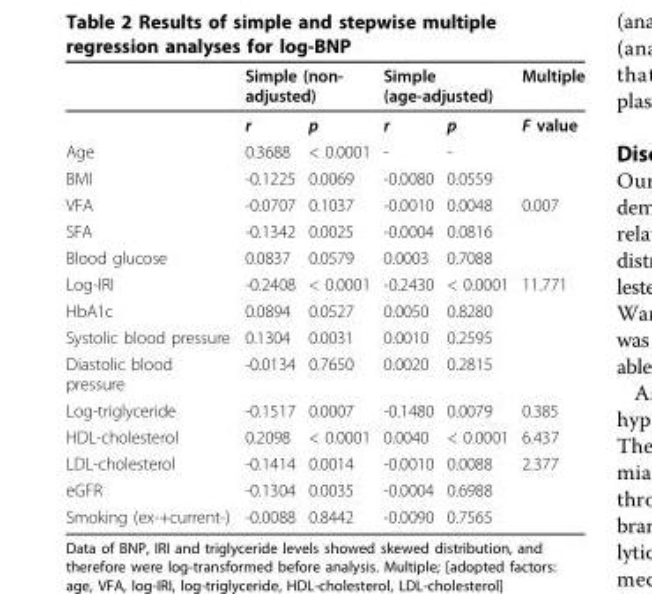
<table><thead><tr><td rowspan="2"></td><td colspan="2">Simple (non- adjusted)</td><td colspan="2">Simple (age-adjusted)</td><td rowspan="2">Multiple F value</td></tr><tr><td>r</td><td>p</td><td>r</td><td>p</td></tr></thead><tbody><tr><td>Age</td><td>0.3688</td><td>&lt; 0.0001</td><td>-</td><td>-</td><td></td></tr><tr><td>BMI</td><td>-0.1225</td><td>0.0069</td><td>-0.0080</td><td>0.0559</td><td></td></tr><tr><td>VFA</td><td>-0.0707</td><td>0.1037</td><td>-0.0010</td><td>0.0048</td><td>0.007</td></tr><tr><td>SFA</td><td>-0.1342</td><td>0.0025</td><td>-0.0004</td><td>0.0816</td><td></td></tr><tr><td>Blood glucose</td><td>0.0837</td><td>0.0579</td><td>0.0003</td><td>0.7088</td><td></td></tr><tr><td>Log-IRI</td><td>-0.2408</td><td>&lt; 0.0001</td><td>-0.2430</td><td>&lt; 0.0001</td><td>11.771</td></tr><tr><td>HbA1c</td><td>0.0894</td><td>0.0527</td><td>0.0050</td><td>0.8280</td><td></td></tr><tr><td>Systolic blood pressure</td><td>0.1304</td><td>0.0031</td><td>0.0010</td><td>0.2595</td><td></td></tr><tr><td>Diastolic blood pressure</td><td>-0.0134</td><td>0.7650</td><td>0.0020</td><td>0.2815</td><td></td></tr><tr><td>Log-triglyceride</td><td>-0.1517</td><td>0.0007</td><td>-0.1480</td><td>0.0079</td><td>0.385</td></tr><tr><td>HDL-cholesterol</td><td>0.2098</td><td>&lt; 0.0001</td><td>0.0040</td><td>&lt; 0.0001</td><td>6.437</td></tr><tr><td>LDL-cholesterol</td><td>-0.1414</td><td>0.0014</td><td>-0.0010</td><td>0.0088</td><td>2.377</td></tr><tr><td>eGFR</td><td>-0.1304</td><td>0.0035</td><td>-0.0004</td><td>0.6988</td><td></td></tr><tr><td>Smoking (ex-+current-)</td><td>-0.0088</td><td>0.8442</td><td>-0.0090</td><td>0.7565</td><td></td></tr></tbody></table>